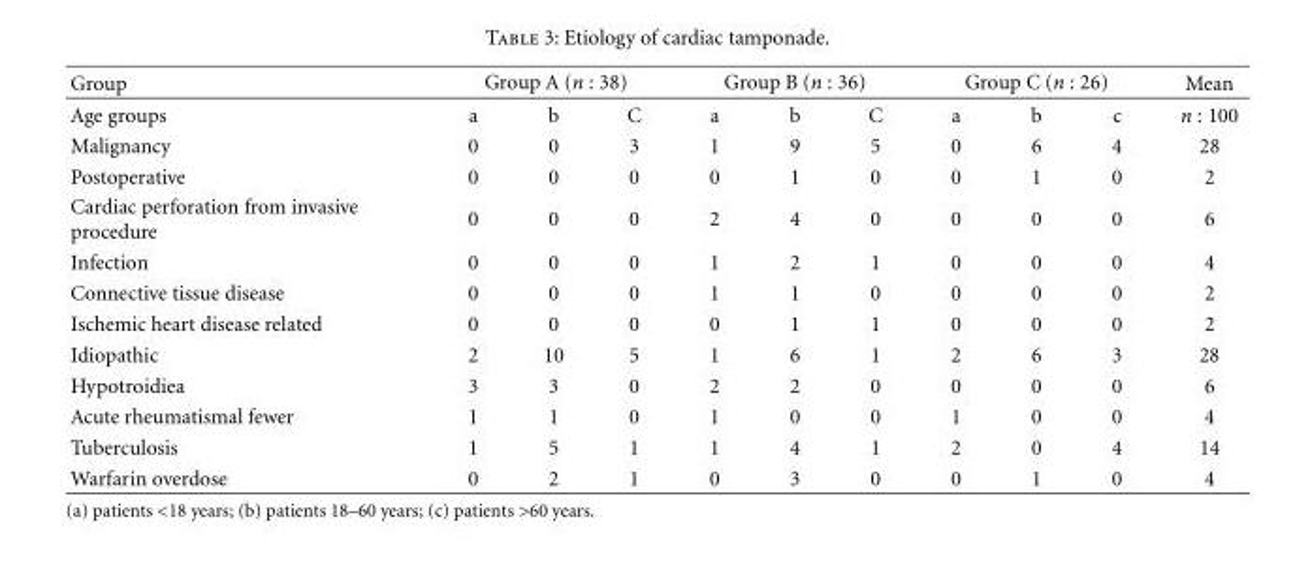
<table><thead><tr><td rowspan="2">Group Age groups</td><td colspan="3">Group A (n : 38)</td><td colspan="3">Group B (n : 36)</td><td colspan="3">Group C (n : 26)</td><td rowspan="2">Mean n : 100</td></tr><tr><td>a</td><td>b</td><td>C</td><td>a</td><td>b</td><td>C</td><td>a</td><td>b</td><td>c</td></tr></thead><tbody><tr><td>Malignancy</td><td>0</td><td>0</td><td>3</td><td>1</td><td>9</td><td>5</td><td>0</td><td>6</td><td>4</td><td>28</td></tr><tr><td>Postoperative</td><td>0</td><td>0</td><td>0</td><td>0</td><td>1</td><td>0</td><td>0</td><td>1</td><td>0</td><td>2</td></tr><tr><td>Cardiac perforation from invasive procedure</td><td>0</td><td>0</td><td>0</td><td>2</td><td>4</td><td>0</td><td>0</td><td>0</td><td>0</td><td>6</td></tr><tr><td>Infection</td><td>0</td><td>0</td><td>0</td><td>1</td><td>2</td><td>1</td><td>0</td><td>0</td><td>0</td><td>4</td></tr><tr><td>Connective tissue disease</td><td>0</td><td>0</td><td>0</td><td>1</td><td>1</td><td>0</td><td>0</td><td>0</td><td>0</td><td>2</td></tr><tr><td>Ischemic heart disease related</td><td>0</td><td>0</td><td>0</td><td>0</td><td>1</td><td>1</td><td>0</td><td>0</td><td>0</td><td>2</td></tr><tr><td>Idiopathic</td><td>2</td><td>10</td><td>5</td><td>1</td><td>6</td><td>1</td><td>2</td><td>6</td><td>3</td><td>28</td></tr><tr><td>Hypotroidiea</td><td>3</td><td>3</td><td>0</td><td>2</td><td>2</td><td>0</td><td>0</td><td>0</td><td>0</td><td>6</td></tr><tr><td>Acute rheumatismal fewer</td><td>1</td><td>1</td><td>0</td><td>1</td><td>0</td><td>0</td><td>1</td><td>0</td><td>0</td><td>4</td></tr><tr><td>Tuberculosis</td><td>1</td><td>5</td><td>1</td><td>1</td><td>4</td><td>1</td><td>2</td><td>0</td><td>4</td><td>14</td></tr><tr><td>Warfarin overdose</td><td>0</td><td>2</td><td>1</td><td>0</td><td>3</td><td>0</td><td>0</td><td>1</td><td>0</td><td>4</td></tr></tbody></table>